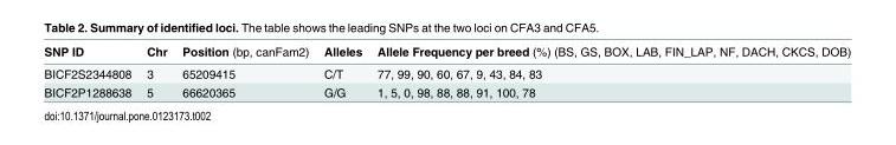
<table><thead><tr><td>SNP ID</td><td>Chr</td><td>Position (bp, canFam2)</td><td>Alleles</td><td>Allele Frequency per breed (%) (BS, GS, BOX, LAB, FIN_LAP, NF, DACH, CKCS, DOB)</td></tr></thead><tbody><tr><td>BICF2S2344808</td><td>3</td><td>65209415</td><td>C/T</td><td>77, 99, 90, 60, 67, 9, 43, 84, 83</td></tr><tr><td>BICF2P1288638</td><td>5</td><td>66620365</td><td>G/G</td><td>1, 5, 0, 98, 88, 88, 91, 100, 78</td></tr></tbody></table>